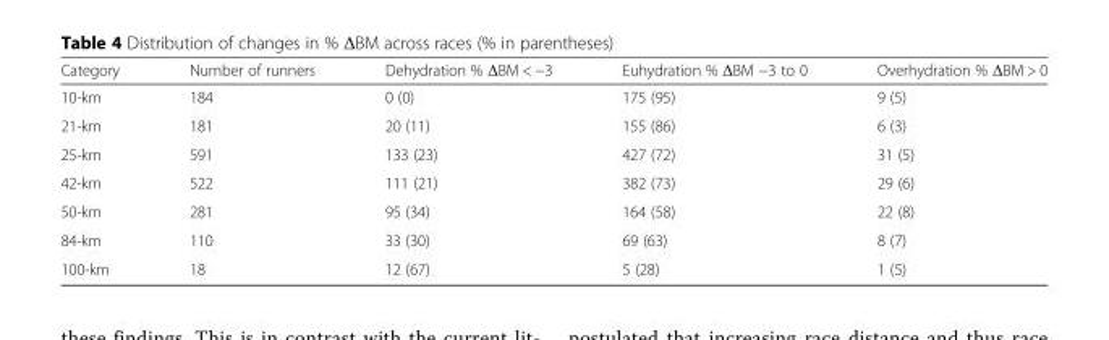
<table><thead><tr><td>Category</td><td>Number of runners</td><td>Dehydration % ΔBM &lt; −3</td><td>Euhydration % ΔBM −3 to 0</td><td>Overhydration % ΔBM &gt; 0</td></tr></thead><tbody><tr><td>10-km</td><td>184</td><td>0 (0)</td><td>175 (95)</td><td>9 (5)</td></tr><tr><td>21-km</td><td>181</td><td>20 (11)</td><td>155 (86)</td><td>6 (3)</td></tr><tr><td>25-km</td><td>591</td><td>133 (23)</td><td>427 (72)</td><td>31 (5)</td></tr><tr><td>42-km</td><td>522</td><td>111 (21)</td><td>382 (73)</td><td>29 (6)</td></tr><tr><td>50-km</td><td>281</td><td>95 (34)</td><td>164 (58)</td><td>22 (8)</td></tr><tr><td>84-km</td><td>110</td><td>33 (30)</td><td>69 (63)</td><td>8 (7)</td></tr><tr><td>100-km</td><td>18</td><td>12 (67)</td><td>5 (28)</td><td>1 (5)</td></tr></tbody></table>